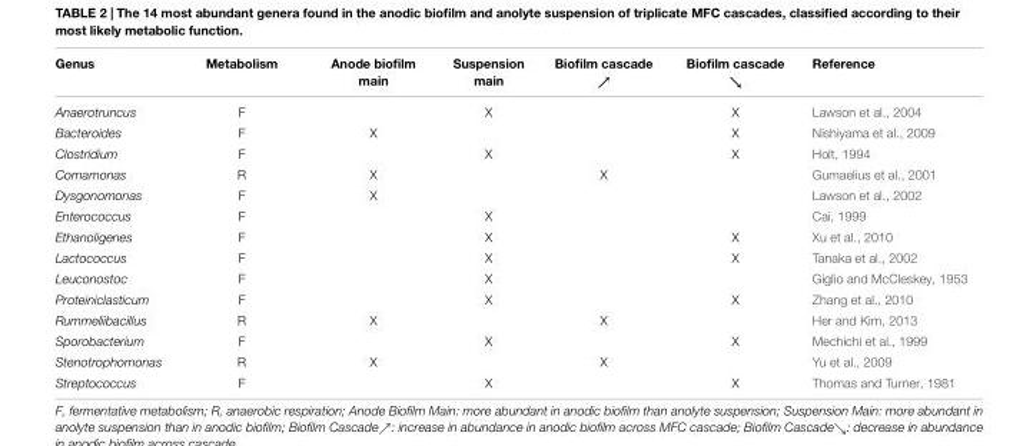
<table><thead><tr><td>Genus</td><td>Metabolism</td><td>Anode biofilm main</td><td>Suspension main</td><td>Biofilm cascade ↗</td><td>Biofilm cascade ↘</td><td>Reference</td></tr></thead><tbody><tr><td>Anaerotruncus</td><td>F</td><td></td><td>X</td><td></td><td>X</td><td>Lawson et al., 2004</td></tr><tr><td>Bacteroides</td><td>F</td><td>X</td><td></td><td></td><td>X</td><td>Nishiyama et al., 2009</td></tr><tr><td>Clostridium</td><td>F</td><td></td><td>X</td><td></td><td>X</td><td>Holt, 1994</td></tr><tr><td>Comamonas</td><td>R</td><td>X</td><td></td><td>X</td><td></td><td>Gumaelius et al., 2001</td></tr><tr><td>Dysgonomonas</td><td>F</td><td>X</td><td></td><td></td><td></td><td>Lawson et al., 2002</td></tr><tr><td>Enterococcus</td><td>F</td><td></td><td>X</td><td></td><td></td><td>Cai, 1999</td></tr><tr><td>Ethanoligenes</td><td>F</td><td></td><td>X</td><td></td><td>X</td><td>Xu et al., 2010</td></tr><tr><td>Lactococcus</td><td>F</td><td></td><td>X</td><td></td><td>X</td><td>Tanaka et al., 2002</td></tr><tr><td>Leuconostoc</td><td>F</td><td></td><td>X</td><td></td><td></td><td>Giglio and McCleskey, 1953</td></tr><tr><td>Proteiniclasticum</td><td>F</td><td></td><td>X</td><td></td><td>X</td><td>Zhang et al., 2010</td></tr><tr><td>Rummeliibacillus</td><td>R</td><td>X</td><td></td><td>X</td><td></td><td>Her and Kim, 2013</td></tr><tr><td>Sporobacterium</td><td>F</td><td></td><td>X</td><td></td><td>X</td><td>Mechichi et al., 1999</td></tr><tr><td>Stenotrophomonas</td><td>R</td><td>X</td><td></td><td>X</td><td></td><td>Yu et al., 2009</td></tr><tr><td>Streptococcus</td><td>F</td><td></td><td>X</td><td></td><td>X</td><td>Thomas and Turner, 1981</td></tr></tbody></table>